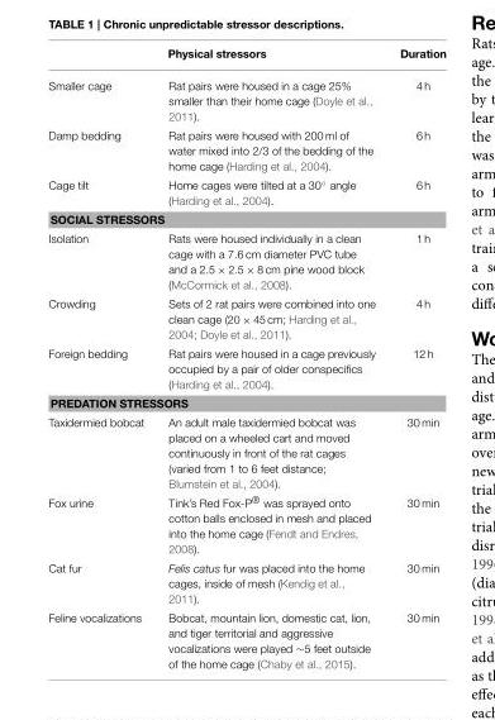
<table><thead><tr><td></td><td>Physical stressors</td><td>Duration</td></tr></thead><tbody><tr><td>Smaller cage</td><td>Rat pairs were housed in a cage 25% smaller than their home cage (Doyle et al., 2011).</td><td>4 h</td></tr><tr><td>Damp bedding</td><td>Rat pairs were housed with 200 ml of water mixed into 2/3 of the bedding of the home cage (Harding et al., 2004).</td><td>6 h</td></tr><tr><td>Cage tilt</td><td>Home cages were tilted at a 30◦ angle (Harding et al., 2004).</td><td>6 h</td></tr><tr><td colspan="3">SOCIAL STRESSORS</td></tr><tr><td>Isolation</td><td>Rats were housed individually in a clean cage with a 7.6 cm diameter PVC tube and a 2.5 × 2.5 × 8 cm pine wood block (McCormick et al., 2008).</td><td>1 h</td></tr><tr><td>Crowding</td><td>Sets of 2 rat pairs were combined into one clean cage (20 × 45 cm; Harding et al., 2004; Doyle et al., 2011).</td><td>4 h</td></tr><tr><td>Foreign bedding</td><td>Rat pairs were housed in a cage previously occupied by a pair of older conspecifics (Harding et al., 2004).</td><td>12 h</td></tr><tr><td colspan="3">PREDATION STRESSORS</td></tr><tr><td>Taxidermied bobcat</td><td>An adult male taxidermied bobcat was placed on a wheeled cart and moved continuously in front of the rat cages (varied from 1 to 6 feet distance; Blumstein et al., 2004).</td><td>30 min</td></tr><tr><td>Fox urine</td><td>Tink’s Red Fox-P® was sprayed onto cotton balls enclosed in mesh and placed into the home cage (Fendt and Endres, 2008).</td><td>30 min</td></tr><tr><td>Cat fur</td><td>Felis catus fur was placed into the home cages, inside of mesh (Kendig et al., 2011).</td><td>30 min</td></tr><tr><td>Feline vocalizations</td><td>Bobcat, mountain lion, domestic cat, lion, and tiger territorial and aggressive vocalizations were played ∼5 feet outside of the home cage (Chaby et al., 2015).</td><td>30 min</td></tr></tbody></table>